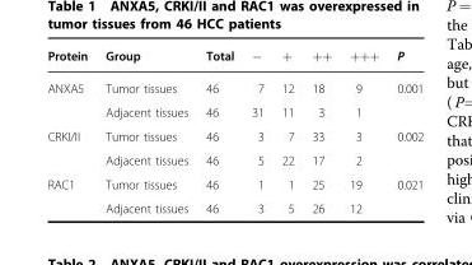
<table><thead><tr><td>Protein</td><td>Group</td><td>Total</td><td>−</td><td>+</td><td>++</td><td>+++</td><td>P</td></tr></thead><tbody><tr><td rowspan="2">ANXA5</td><td>Tumor tissues</td><td>46</td><td>7</td><td>12</td><td>18</td><td>9</td><td rowspan="2">0.001</td></tr><tr><td>Adjacent tissues</td><td>46</td><td>31</td><td>11</td><td>3</td><td>1</td></tr><tr><td rowspan="2">CRKI/II</td><td>Tumor tissues</td><td>46</td><td>3</td><td>7</td><td>33</td><td>3</td><td rowspan="2">0.002</td></tr><tr><td>Adjacent tissues</td><td>46</td><td>5</td><td>22</td><td>17</td><td>2</td></tr><tr><td rowspan="2">RAC1</td><td>Tumor tissues</td><td>46</td><td>1</td><td>1</td><td>25</td><td>19</td><td rowspan="2">0.021</td></tr><tr><td>Adjacent tissues</td><td>46</td><td>3</td><td>5</td><td>26</td><td>12</td></tr></tbody></table>